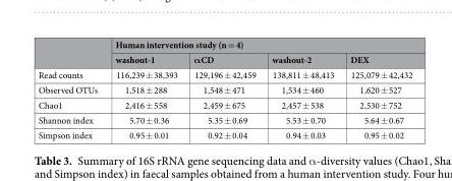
<table><thead><tr><td rowspan="2"></td><td colspan="4">Human intervention study (n = 4)</td></tr><tr><td>washout-1</td><td>αCD</td><td>washout-2</td><td>DEX</td></tr></thead><tbody><tr><td>Read counts</td><td>116,239 ± 38,393</td><td>129,196 ± 42,459</td><td>138,811 ± 48,413</td><td>125,079 ± 42,432</td></tr><tr><td>Observed OTUs</td><td>1,518 ± 288</td><td>1,548 ± 471</td><td>1,534 ± 460</td><td>1,620 ± 527</td></tr><tr><td>Chao1</td><td>2,416 ± 558</td><td>2,459 ± 675</td><td>2,457 ± 538</td><td>2,530 ± 752</td></tr><tr><td>Shannon index</td><td>5.70 ± 0.36</td><td>5.35 ± 0.69</td><td>5.53 ± 0.70</td><td>5.64 ± 0.67</td></tr><tr><td>Simpson index</td><td>0.95 ± 0.01</td><td>0.92 ± 0.04</td><td>0.94 ± 0.03</td><td>0.95 ± 0.02</td></tr></tbody></table>